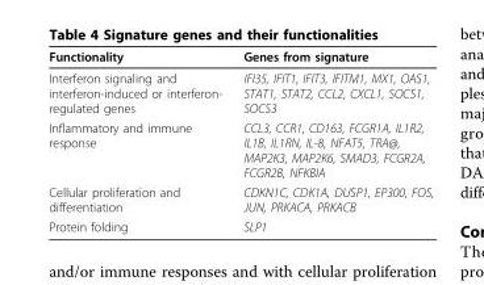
<table><thead><tr><td>Functionality</td><td>Genes from signature</td></tr></thead><tbody><tr><td>Interferon signaling and interferon-induced or interferon- regulated genes</td><td>IFI35, IFIT1, IFIT3, IFITM1, MX1, OAS1, STAT1, STAT2, CCL2, CXCL1, SOCS1, SOCS3</td></tr><tr><td>Inflammatory and immune response</td><td>CCL3, CCR1, CD163, FCGR1A, IL1R2, IL1B, IL1RN, IL-8, NFAT5, TRA@, MAP2K3, MAP2K6, SMAD3, FCGR2A, FCGR2B, NFKBIA</td></tr><tr><td>Cellular proliferation and differentiation</td><td>CDKN1C, CDK1A, DUSP1, EP300, FOS, JUN, PRKACA, PRKACB</td></tr><tr><td>Protein folding</td><td>SLP1</td></tr></tbody></table>